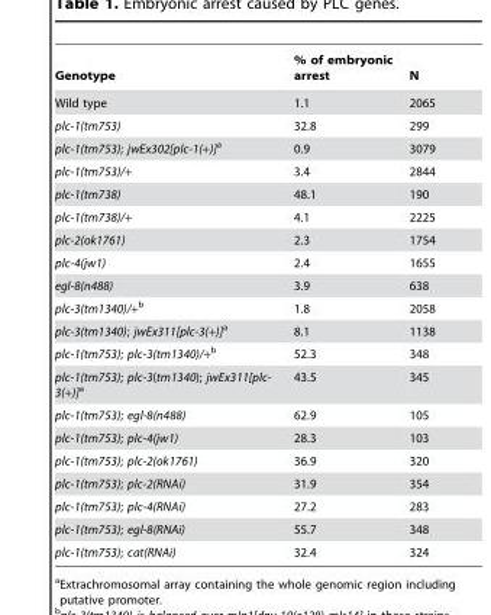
<table><thead><tr><td>Genotype</td><td>% of embryonic arrest</td><td>N</td></tr></thead><tbody><tr><td>Wild type</td><td>1.1</td><td>2065</td></tr><tr><td>plc-1(tm753)</td><td>32.8</td><td>299</td></tr><tr><td>plc-1(tm753); jwEx302[plc-1(+)]a</td><td>0.9</td><td>3079</td></tr><tr><td>plc-1(tm753)/+</td><td>3.4</td><td>2844</td></tr><tr><td>plc-1(tm738)</td><td>48.1</td><td>190</td></tr><tr><td>plc-1(tm738)/+</td><td>4.1</td><td>2225</td></tr><tr><td>plc-2(ok1761)</td><td>2.3</td><td>1754</td></tr><tr><td>plc-4(jw1)</td><td>2.4</td><td>1655</td></tr><tr><td>egl-8(n488)</td><td>3.9</td><td>638</td></tr><tr><td>plc-3(tm1340)/+b</td><td>1.8</td><td>2058</td></tr><tr><td>plc-3(tm1340); jwEx311[plc-3(+)]a</td><td>8.1</td><td>1138</td></tr><tr><td>plc-1(tm753); plc-3(tm1340)/+b</td><td>52.3</td><td>348</td></tr><tr><td>plc-1(tm753); plc-3(tm1340); jwEx311[plc- 3(+)]a</td><td>43.5</td><td>345</td></tr><tr><td>plc-1(tm753); egl-8(n488)</td><td>62.9</td><td>105</td></tr><tr><td>plc-1(tm753); plc-4(jw1)</td><td>28.3</td><td>103</td></tr><tr><td>plc-1(tm753); plc-2(ok1761)</td><td>36.9</td><td>320</td></tr><tr><td>plc-1(tm753); plc-2(RNAi)</td><td>31.9</td><td>354</td></tr><tr><td>plc-1(tm753); plc-4(RNAi)</td><td>27.2</td><td>283</td></tr><tr><td>plc-1(tm753); egl-8(RNAi)</td><td>55.7</td><td>348</td></tr><tr><td>plc-1(tm753); cat(RNAi)</td><td>32.4</td><td>324</td></tr></tbody></table>